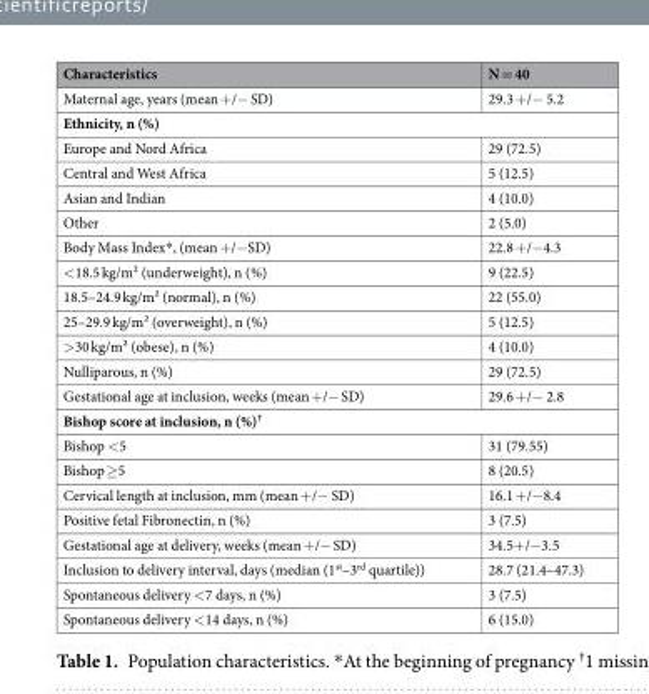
<table><thead><tr><td>Characteristics</td><td>N = 40</td></tr></thead><tbody><tr><td>Maternal age, years (mean +/− SD)</td><td>29.3 +/− 5.2</td></tr><tr><td colspan="2">Ethnicity, n (%)</td></tr><tr><td>Europe and Nord Africa</td><td>29 (72.5)</td></tr><tr><td>Central and West Africa</td><td>5 (12.5)</td></tr><tr><td>Asian and Indian</td><td>4 (10.0)</td></tr><tr><td>Other</td><td>2 (5.0)</td></tr><tr><td>Body Mass Index*, (mean +/−SD)</td><td>22.8 +/−4.3</td></tr><tr><td>&lt;18.5 kg/m² (underweight), n (%)</td><td>9 (22.5)</td></tr><tr><td>18.5–24.9 kg/m² (normal), n (%)</td><td>22 (55.0)</td></tr><tr><td>25–29.9 kg/m² (overweight), n (%)</td><td>5 (12.5)</td></tr><tr><td>&gt;30 kg/m² (obese), n (%)</td><td>4 (10.0)</td></tr><tr><td>Nulliparous, n (%)</td><td>29 (72.5)</td></tr><tr><td>Gestational age at inclusion, weeks (mean +/− SD)</td><td>29.6 +/− 2.8</td></tr><tr><td colspan="2">Bishop score at inclusion, n (%)<sup>†</sup></td></tr><tr><td>Bishop &lt;5</td><td>31 (79.55)</td></tr><tr><td>Bishop ≥5</td><td>8 (20.5)</td></tr><tr><td>Cervical length at inclusion, mm (mean +/− SD)</td><td>16.1 +/−8.4</td></tr><tr><td>Positive fetal Fibronectin, n (%)</td><td>3 (7.5)</td></tr><tr><td>Gestational age at delivery, weeks (mean +/− SD)</td><td>34.5+/−3.5</td></tr><tr><td>Inclusion to delivery interval, days (median (1<sup>st</sup>–3<sup>rd</sup> quartile))</td><td>28.7 (21.4–47.3)</td></tr><tr><td>Spontaneous delivery &lt;7 days, n (%)</td><td>3 (7.5)</td></tr><tr><td>Spontaneous delivery &lt;14 days, n (%)</td><td>6 (15.0)</td></tr></tbody></table>